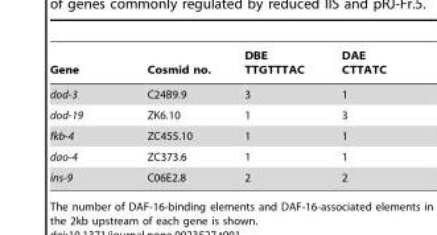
<table><thead><tr><td>Gene</td><td>Cosmid no.</td><td>DBE TTGTTTAC</td><td>DAE CTTATC</td></tr></thead><tbody><tr><td>dod-3</td><td>C24B9.9</td><td>3</td><td>1</td></tr><tr><td>dod-19</td><td>ZK6.10</td><td>1</td><td>3</td></tr><tr><td>fkb-4</td><td>ZC455.10</td><td>1</td><td>1</td></tr><tr><td>dao-4</td><td>ZC373.6</td><td>1</td><td>1</td></tr><tr><td>ins-9</td><td>C06E2.8</td><td>2</td><td>2</td></tr></tbody></table>